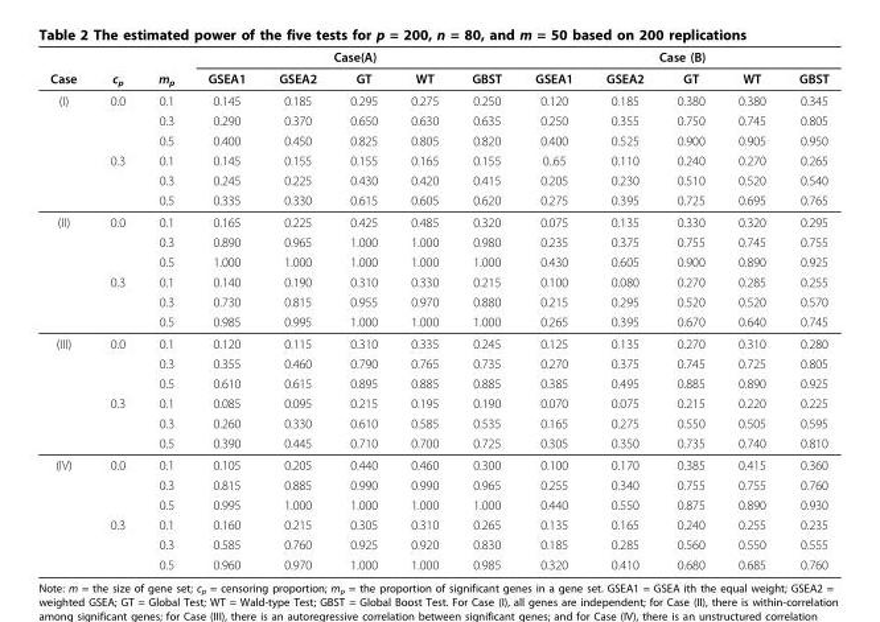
<table><thead><tr><td rowspan="2">Case</td><td rowspan="2">c<sub>p</sub></td><td rowspan="2">m<sub>p</sub></td><td colspan="5">Case(A)</td><td colspan="5">Case (B)</td></tr><tr><td>GSEA1</td><td>GSEA2</td><td>GT</td><td>WT</td><td>GBST</td><td>GSEA1</td><td>GSEA2</td><td>GT</td><td>WT</td><td>GBST</td></tr></thead><tbody><tr><td rowspan="6">(I)</td><td>0.0</td><td>0.1</td><td>0.145</td><td>0.185</td><td>0.295</td><td>0.275</td><td>0.250</td><td>0.120</td><td>0.185</td><td>0.380</td><td>0.380</td><td>0.345</td></tr><tr><td></td><td>0.3</td><td>0.290</td><td>0.370</td><td>0.650</td><td>0.630</td><td>0.635</td><td>0.250</td><td>0.355</td><td>0.750</td><td>0.745</td><td>0.805</td></tr><tr><td></td><td>0.5</td><td>0.400</td><td>0.450</td><td>0.825</td><td>0.805</td><td>0.820</td><td>0.400</td><td>0.525</td><td>0.900</td><td>0.905</td><td>0.950</td></tr><tr><td>0.3</td><td>0.1</td><td>0.145</td><td>0.155</td><td>0.155</td><td>0.165</td><td>0.155</td><td>0..65</td><td>0.110</td><td>0.240</td><td>0.270</td><td>0.265</td></tr><tr><td></td><td>0.3</td><td>0.245</td><td>0.225</td><td>0.430</td><td>0.420</td><td>0.415</td><td>0.205</td><td>0.230</td><td>0.510</td><td>0.520</td><td>0.540</td></tr><tr><td></td><td>0.5</td><td>0.335</td><td>0.330</td><td>0.615</td><td>0.605</td><td>0.620</td><td>0.275</td><td>0.395</td><td>0.725</td><td>0.695</td><td>0.765</td></tr><tr><td rowspan="6">(II)</td><td>0.0</td><td>0.1</td><td>0.165</td><td>0.225</td><td>0.425</td><td>0.485</td><td>0.320</td><td>0.075</td><td>0.135</td><td>0.330</td><td>0.320</td><td>0.295</td></tr><tr><td></td><td>0.3</td><td>0.890</td><td>0.965</td><td>1.000</td><td>1.000</td><td>0.980</td><td>0.235</td><td>0.375</td><td>0.755</td><td>0.745</td><td>0.755</td></tr><tr><td></td><td>0.5</td><td>1.000</td><td>1.000</td><td>1.000</td><td>1.000</td><td>1.000</td><td>0.430</td><td>0.605</td><td>0.900</td><td>0.890</td><td>0.925</td></tr><tr><td>0.3</td><td>0.1</td><td>0.140</td><td>0.190</td><td>0.310</td><td>0.330</td><td>0.215</td><td>0.100</td><td>0.080</td><td>0.270</td><td>0.285</td><td>0.255</td></tr><tr><td></td><td>0.3</td><td>0.730</td><td>0.815</td><td>0.955</td><td>0.970</td><td>0.880</td><td>0.215</td><td>0.295</td><td>0.520</td><td>0.520</td><td>0.570</td></tr><tr><td></td><td>0.5</td><td>0.985</td><td>0.995</td><td>1.000</td><td>1.000</td><td>1.000</td><td>0.265</td><td>0.395</td><td>0.670</td><td>0.640</td><td>0.745</td></tr><tr><td rowspan="6">(III)</td><td>0.0</td><td>0.1</td><td>0.120</td><td>0.115</td><td>0.310</td><td>0.335</td><td>0.245</td><td>0.125</td><td>0.135</td><td>0.270</td><td>0.310</td><td>0.280</td></tr><tr><td></td><td>0.3</td><td>0.355</td><td>0.460</td><td>0.790</td><td>0.765</td><td>0.735</td><td>0.270</td><td>0.375</td><td>0.745</td><td>0.725</td><td>0.805</td></tr><tr><td></td><td>0.5</td><td>0.610</td><td>0.615</td><td>0.895</td><td>0.885</td><td>0.885</td><td>0.385</td><td>0.495</td><td>0.885</td><td>0.890</td><td>0.925</td></tr><tr><td>0.3</td><td>0.1</td><td>0.085</td><td>0.095</td><td>0.215</td><td>0.195</td><td>0.190</td><td>0.070</td><td>0.075</td><td>0.215</td><td>0.220</td><td>0.225</td></tr><tr><td></td><td>0.3</td><td>0.260</td><td>0.330</td><td>0.610</td><td>0.585</td><td>0.535</td><td>0.165</td><td>0.275</td><td>0.550</td><td>0.505</td><td>0.595</td></tr><tr><td></td><td>0.5</td><td>0.390</td><td>0.445</td><td>0.710</td><td>0.700</td><td>0.725</td><td>0.305</td><td>0.350</td><td>0.735</td><td>0.740</td><td>0.810</td></tr><tr><td rowspan="6">(IV)</td><td>0.0</td><td>0.1</td><td>0.105</td><td>0.205</td><td>0.440</td><td>0.460</td><td>0.300</td><td>0.100</td><td>0.170</td><td>0.385</td><td>0.415</td><td>0.360</td></tr><tr><td></td><td>0.3</td><td>0.815</td><td>0.885</td><td>0.990</td><td>0.990</td><td>0.965</td><td>0.255</td><td>0.340</td><td>0.755</td><td>0.755</td><td>0.760</td></tr><tr><td></td><td>0.5</td><td>0.995</td><td>1.000</td><td>1.000</td><td>1.000</td><td>1.000</td><td>0.440</td><td>0.550</td><td>0.875</td><td>0.890</td><td>0.930</td></tr><tr><td>0.3</td><td>0.1</td><td>0.160</td><td>0.215</td><td>0.305</td><td>0.310</td><td>0.265</td><td>0.135</td><td>0.165</td><td>0.240</td><td>0.255</td><td>0.235</td></tr><tr><td></td><td>0.3</td><td>0.585</td><td>0.760</td><td>0.925</td><td>0.920</td><td>0.830</td><td>0.185</td><td>0.285</td><td>0.560</td><td>0.550</td><td>0.555</td></tr><tr><td></td><td>0.5</td><td>0.960</td><td>0.970</td><td>1.000</td><td>1.000</td><td>0.985</td><td>0.320</td><td>0.410</td><td>0.680</td><td>0.685</td><td>0.760</td></tr></tbody></table>